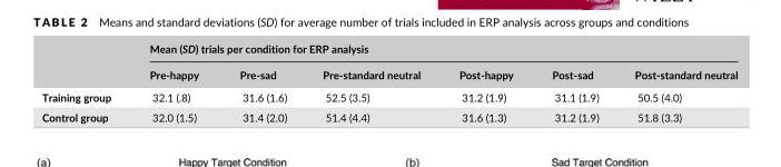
<table><thead><tr><td rowspan="2"></td><td colspan="6">Mean (SD) trials per condition for ERP analysis</td></tr><tr><td>Pre- happy</td><td>Pre- sad</td><td>Pre- standard neutral</td><td>Post- happy</td><td>Post- sad</td><td>Post- standard neutral</td></tr></thead><tbody><tr><td>Training group</td><td>32.1 (.8)</td><td>31.6 (1.6)</td><td>52.5 (3.5)</td><td>31.2 (1.9)</td><td>31.1 (1.9)</td><td>50.5 (4.0)</td></tr><tr><td>Control group</td><td>32.0 (1.5)</td><td>31.4 (2.0)</td><td>51.4 (4.4)</td><td>31.6 (1.3)</td><td>31.2 (1.9)</td><td>51.8 (3.3)</td></tr></tbody></table>